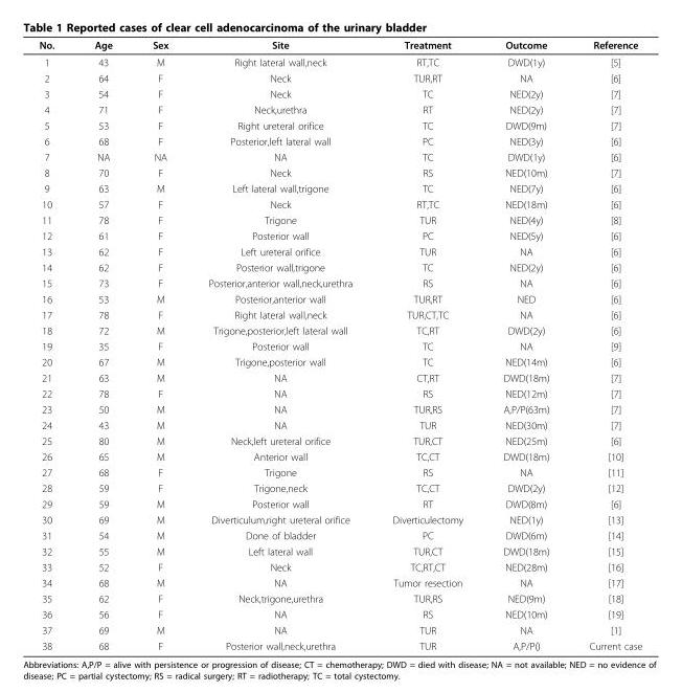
<table><thead><tr><td>No.</td><td>Age</td><td>Sex</td><td>Site</td><td>Treatment</td><td>Outcome</td><td>Reference</td></tr></thead><tbody><tr><td>1</td><td>43</td><td>M</td><td>Right lateral wall,neck</td><td>RT,TC</td><td>DWD(1y)</td><td>[5]</td></tr><tr><td>2</td><td>64</td><td>F</td><td>Neck</td><td>TUR,RT</td><td>NA</td><td>[6]</td></tr><tr><td>3</td><td>54</td><td>F</td><td>Neck</td><td>TC</td><td>NED(2y)</td><td>[7]</td></tr><tr><td>4</td><td>71</td><td>F</td><td>Neck,urethra</td><td>RT</td><td>NED(2y)</td><td>[7]</td></tr><tr><td>5</td><td>53</td><td>F</td><td>Right ureteral orifice</td><td>TC</td><td>DWD(9m)</td><td>[7]</td></tr><tr><td>6</td><td>68</td><td>F</td><td>Posterior,left lateral wall</td><td>PC</td><td>NED(3y)</td><td>[6]</td></tr><tr><td>7</td><td>NA</td><td>NA</td><td>NA</td><td>TC</td><td>DWD(1y)</td><td>[6]</td></tr><tr><td>8</td><td>70</td><td>F</td><td>Neck</td><td>RS</td><td>NED(10m)</td><td>[7]</td></tr><tr><td>9</td><td>63</td><td>M</td><td>Left lateral wall,trigone</td><td>TC</td><td>NED(7y)</td><td>[6]</td></tr><tr><td>10</td><td>57</td><td>F</td><td>Neck</td><td>RT,TC</td><td>NED(18m)</td><td>[6]</td></tr><tr><td>11</td><td>78</td><td>F</td><td>Trigone</td><td>TUR</td><td>NED(4y)</td><td>[8]</td></tr><tr><td>12</td><td>61</td><td>F</td><td>Posterior wall</td><td>PC</td><td>NED(5y)</td><td>[6]</td></tr><tr><td>13</td><td>62</td><td>F</td><td>Left ureteral orifice</td><td>TUR</td><td>NA</td><td>[6]</td></tr><tr><td>14</td><td>62</td><td>F</td><td>Posterior wall,trigone</td><td>TC</td><td>NED(2y)</td><td>[6]</td></tr><tr><td>15</td><td>73</td><td>F</td><td>Posterior,anterior wall,neck,urethra</td><td>RS</td><td>NA</td><td>[6]</td></tr><tr><td>16</td><td>53</td><td>M</td><td>Posterior,anterior wall</td><td>TUR,RT</td><td>NED</td><td>[6]</td></tr><tr><td>17</td><td>78</td><td>F</td><td>Right lateral wall,neck</td><td>TUR,CT,TC</td><td>NA</td><td>[6]</td></tr><tr><td>18</td><td>72</td><td>M</td><td>Trigone,posterior,left lateral wall</td><td>TC,RT</td><td>DWD(2y)</td><td>[6]</td></tr><tr><td>19</td><td>35</td><td>F</td><td>Posterior wall</td><td>TC</td><td>NA</td><td>[9]</td></tr><tr><td>20</td><td>67</td><td>M</td><td>Trigone,posterior wall</td><td>TC</td><td>NED(14m)</td><td>[6]</td></tr><tr><td>21</td><td>63</td><td>M</td><td>NA</td><td>CT,RT</td><td>DWD(18m)</td><td>[7]</td></tr><tr><td>22</td><td>78</td><td>F</td><td>NA</td><td>RS</td><td>NED(12m)</td><td>[7]</td></tr><tr><td>23</td><td>50</td><td>M</td><td>NA</td><td>TUR,RS</td><td>A,P/P(63m)</td><td>[7]</td></tr><tr><td>24</td><td>43</td><td>M</td><td>NA</td><td>TUR</td><td>NED(30m)</td><td>[7]</td></tr><tr><td>25</td><td>80</td><td>M</td><td>Neck,left ureteral orifice</td><td>TUR,CT</td><td>NED(25m)</td><td>[6]</td></tr><tr><td>26</td><td>65</td><td>M</td><td>Anterior wall</td><td>TC,CT</td><td>DWD(18m)</td><td>[10]</td></tr><tr><td>27</td><td>68</td><td>F</td><td>Trigone</td><td>RS</td><td>NA</td><td>[11]</td></tr><tr><td>28</td><td>59</td><td>F</td><td>Trigone,neck</td><td>TC,CT</td><td>DWD(2y)</td><td>[12]</td></tr><tr><td>29</td><td>59</td><td>M</td><td>Posterior wall</td><td>RT</td><td>DWD(8m)</td><td>[6]</td></tr><tr><td>30</td><td>69</td><td>M</td><td>Diverticulum,right ureteral orifice</td><td>Diverticulectomy</td><td>NED(1y)</td><td>[13]</td></tr><tr><td>31</td><td>54</td><td>M</td><td>Done of bladder</td><td>PC</td><td>DWD(6m)</td><td>[14]</td></tr><tr><td>32</td><td>55</td><td>M</td><td>Left lateral wall</td><td>TUR,CT</td><td>DWD(18m)</td><td>[15]</td></tr><tr><td>33</td><td>52</td><td>F</td><td>Neck</td><td>TC,RT,CT</td><td>NED(28m)</td><td>[16]</td></tr><tr><td>34</td><td>68</td><td>M</td><td>NA</td><td>Tumor resection</td><td>NA</td><td>[17]</td></tr><tr><td>35</td><td>62</td><td>F</td><td>Neck,trigone,urethra</td><td>TUR,RS</td><td>NED(9m)</td><td>[18]</td></tr><tr><td>36</td><td>56</td><td>F</td><td>NA</td><td>RS</td><td>NED(10m)</td><td>[19]</td></tr><tr><td>37</td><td>69</td><td>M</td><td>NA</td><td>TUR</td><td>NA</td><td>[1]</td></tr><tr><td>38</td><td>68</td><td>F</td><td>Posterior wall,neck,urethra</td><td>TUR</td><td>A,P/P()</td><td>Current case</td></tr></tbody></table>